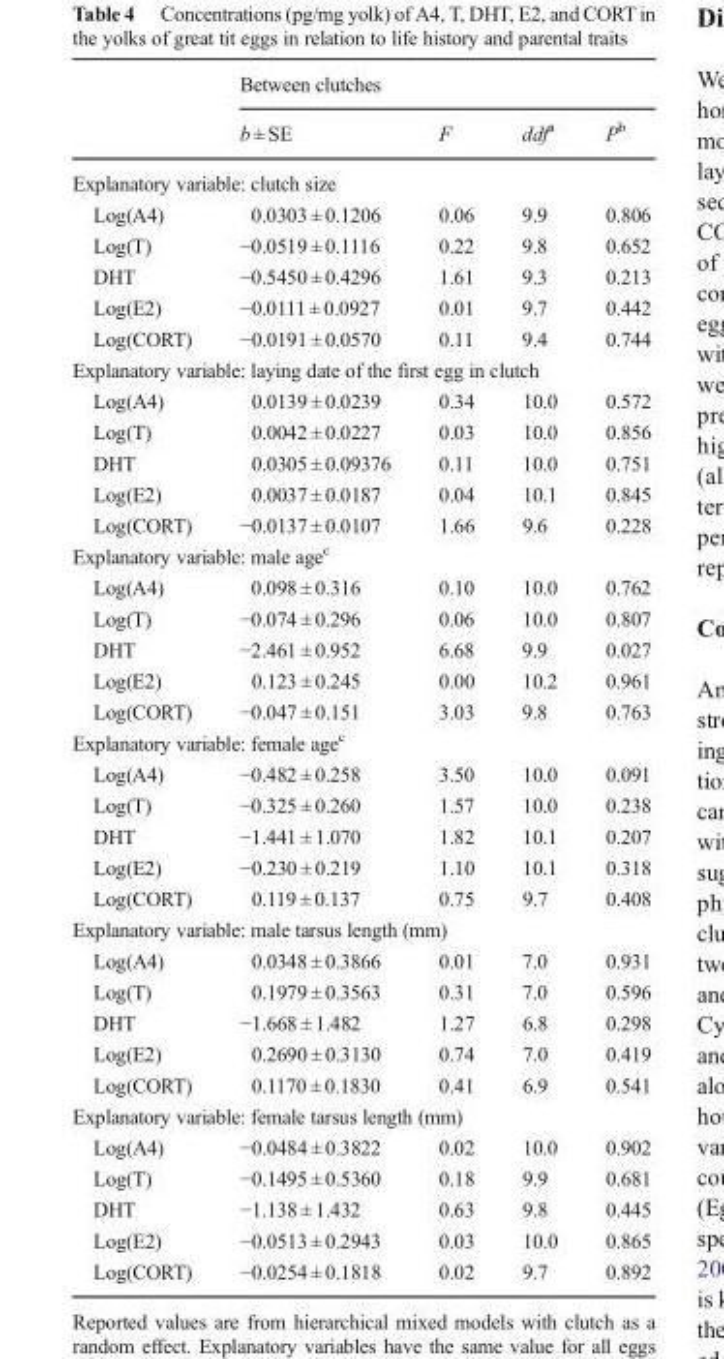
<table><thead><tr><td rowspan="2"></td><td colspan="4">Between clutches</td></tr><tr><td>b ± SE</td><td>F</td><td>ddf<sup>a</sup></td><td>P<sup>b</sup></td></tr></thead><tbody><tr><td colspan="5">Explanatory variable: clutch size</td></tr><tr><td>Log(A4)</td><td>0.0303 ± 0.1206</td><td>0.06</td><td>9.9</td><td>0.806</td></tr><tr><td>Log(T)</td><td>−0.0519 ± 0.1116</td><td>0.22</td><td>9.8</td><td>0.652</td></tr><tr><td>DHT</td><td>−0.5450 ± 0.4296</td><td>1.61</td><td>9.3</td><td>0.213</td></tr><tr><td>Log(E2)</td><td>−0.0111 ± 0.0927</td><td>0.01</td><td>9.7</td><td>0.442</td></tr><tr><td>Log(CORT)</td><td>−0.0191 ± 0.0570</td><td>0.11</td><td>9.4</td><td>0.744</td></tr><tr><td colspan="5">Explanatory variable: laying date of the first egg in clutch</td></tr><tr><td>Log(A4)</td><td>0.0139 ± 0.0239</td><td>0.34</td><td>10.0</td><td>0.572</td></tr><tr><td>Log(T)</td><td>0.0042 ± 0.0227</td><td>0.03</td><td>10.0</td><td>0.856</td></tr><tr><td>DHT</td><td>0.0305 ± 0.09376</td><td>0.11</td><td>10.0</td><td>0.751</td></tr><tr><td>Log(E2)</td><td>0.0037 ± 0.0187</td><td>0.04</td><td>10.1</td><td>0.845</td></tr><tr><td>Log(CORT)</td><td>−0.0137 ± 0.0107</td><td>1.66</td><td>9.6</td><td>0.228</td></tr><tr><td colspan="5">Explanatory variable: male age<sup>c</sup></td></tr><tr><td>Log(A4)</td><td>0.098 ± 0.316</td><td>0.10</td><td>10.0</td><td>0.762</td></tr><tr><td>Log(T)</td><td>−0.074 ± 0.296</td><td>0.06</td><td>10.0</td><td>0.807</td></tr><tr><td>DHT</td><td>−2.461 ± 0.952</td><td>6.68</td><td>9.9</td><td>0.027</td></tr><tr><td>Log(E2)</td><td>0.123 ± 0.245</td><td>0.00</td><td>10.2</td><td>0.961</td></tr><tr><td>Log(CORT)</td><td>−0.047 ± 0.151</td><td>3.03</td><td>9.8</td><td>0.763</td></tr><tr><td colspan="5">Explanatory variable: female age<sup>c</sup></td></tr><tr><td>Log(A4)</td><td>−0.482 ± 0.258</td><td>3.50</td><td>10.0</td><td>0.091</td></tr><tr><td>Log(T)</td><td>−0.325 ± 0.260</td><td>1.57</td><td>10.0</td><td>0.238</td></tr><tr><td>DHT</td><td>−1.441 ± 1.070</td><td>1.82</td><td>10.1</td><td>0.207</td></tr><tr><td>Log(E2)</td><td>−0.230 ± 0.219</td><td>1.10</td><td>10.1</td><td>0.318</td></tr><tr><td>Log(CORT)</td><td>0.119 ± 0.137</td><td>0.75</td><td>9.7</td><td>0.408</td></tr><tr><td colspan="5">Explanatory variable: male tarsus length (mm)</td></tr><tr><td>Log(A4)</td><td>0.0348 ± 0.3866</td><td>0.01</td><td>7.0</td><td>0.931</td></tr><tr><td>Log(T)</td><td>0.1979 ± 0.3563</td><td>0.31</td><td>7.0</td><td>0.596</td></tr><tr><td>DHT</td><td>−1.668 ± 1.482</td><td>1.27</td><td>6.8</td><td>0.298</td></tr><tr><td>Log(E2)</td><td>0.2690 ± 0.3130</td><td>0.74</td><td>7.0</td><td>0.419</td></tr><tr><td>Log(CORT)</td><td>0.1170 ± 0.1830</td><td>0.41</td><td>6.9</td><td>0.541</td></tr><tr><td colspan="5">Explanatory variable: female tarsus length (mm)</td></tr><tr><td>Log(A4)</td><td>−0.0484 ± 0.3822</td><td>0.02</td><td>10.0</td><td>0.902</td></tr><tr><td>Log(T)</td><td>−0.1495 ± 0.5360</td><td>0.18</td><td>9.9</td><td>0.681</td></tr><tr><td>DHT</td><td>−1.138 ± 1.432</td><td>0.63</td><td>9.8</td><td>0.445</td></tr><tr><td>Log(E2)</td><td>−0.0513 ± 0.2943</td><td>0.03</td><td>10.0</td><td>0.865</td></tr><tr><td>Log(CORT)</td><td>−0.0254 ± 0.1818</td><td>0.02</td><td>9.7</td><td>0.892</td></tr></tbody></table>